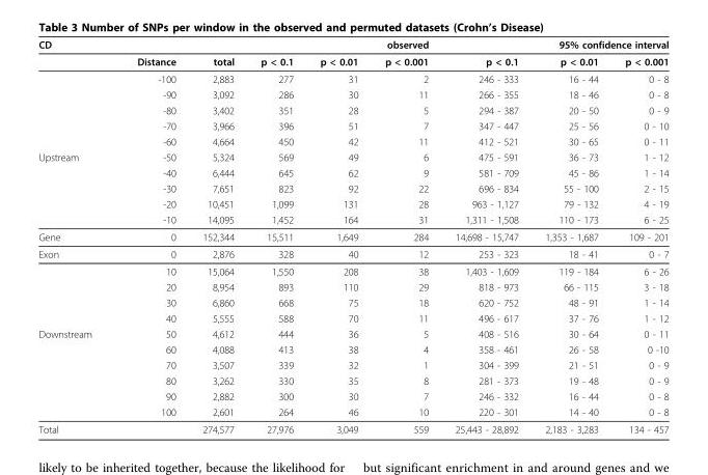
<table><thead><tr><td rowspan="2">CD</td><td rowspan="2">Distance</td><td rowspan="2">total</td><td colspan="3">observed</td><td colspan="3">95% confidence interval</td></tr><tr><td>p &lt; 0.1</td><td>p &lt; 0.01</td><td>p &lt; 0.001</td><td>p &lt; 0.1</td><td>p &lt; 0.01</td><td>p &lt; 0.001</td></tr></thead><tbody><tr><td></td><td>-100</td><td>2,883</td><td>277</td><td>31</td><td>2</td><td>246 - 333</td><td>16 - 44</td><td>0 - 8</td></tr><tr><td></td><td>-90</td><td>3,092</td><td>286</td><td>30</td><td>11</td><td>266 - 355</td><td>18 - 46</td><td>0 - 8</td></tr><tr><td></td><td>-80</td><td>3,402</td><td>351</td><td>28</td><td>5</td><td>294 - 387</td><td>20 - 50</td><td>0 - 9</td></tr><tr><td></td><td>-70</td><td>3,966</td><td>396</td><td>51</td><td>7</td><td>347 - 447</td><td>25 - 56</td><td>0 - 10</td></tr><tr><td></td><td>-60</td><td>4,664</td><td>450</td><td>42</td><td>11</td><td>412 - 521</td><td>30 - 65</td><td>0 - 11</td></tr><tr><td rowspan="5">Upstream</td><td>-50</td><td>5,324</td><td>569</td><td>49</td><td>6</td><td>475 - 591</td><td>36 - 73</td><td>1 - 12</td></tr><tr><td>-40</td><td>6,444</td><td>645</td><td>62</td><td>9</td><td>581 - 709</td><td>45 - 86</td><td>1 - 14</td></tr><tr><td>-30</td><td>7,651</td><td>823</td><td>92</td><td>22</td><td>696 - 834</td><td>55 - 100</td><td>2 - 15</td></tr><tr><td>-20</td><td>10,451</td><td>1,099</td><td>131</td><td>28</td><td>963 - 1,127</td><td>79 - 132</td><td>4 - 19</td></tr><tr><td>-10</td><td>14,095</td><td>1,452</td><td>164</td><td>31</td><td>1,311 - 1,508</td><td>110 - 173</td><td>6 - 25</td></tr><tr><td>Gene</td><td>0</td><td>152,344</td><td>15,511</td><td>1,649</td><td>284</td><td>14,698 - 15,747</td><td>1,353 - 1,687</td><td>109 - 201</td></tr><tr><td rowspan="5">Exon</td><td>0</td><td>2,876</td><td>328</td><td>40</td><td>12</td><td>253 - 323</td><td>18 - 41</td><td>0 - 7</td></tr><tr><td>10</td><td>15,064</td><td>1,550</td><td>208</td><td>38</td><td>1,403 - 1,609</td><td>119 - 184</td><td>6 - 26</td></tr><tr><td>20</td><td>8,954</td><td>893</td><td>110</td><td>29</td><td>818 - 973</td><td>66 - 115</td><td>3 - 18</td></tr><tr><td>30</td><td>6,860</td><td>668</td><td>75</td><td>18</td><td>620 - 752</td><td>48 - 91</td><td>1 - 14</td></tr><tr><td>40</td><td>5,555</td><td>588</td><td>70</td><td>11</td><td>496 - 617</td><td>37 - 76</td><td>1 - 12</td></tr><tr><td rowspan="6">Downstream</td><td>50</td><td>4,612</td><td>444</td><td>36</td><td>5</td><td>408 - 516</td><td>30 - 64</td><td>0 - 11</td></tr><tr><td>60</td><td>4,088</td><td>413</td><td>38</td><td>4</td><td>358 - 461</td><td>26 - 58</td><td>0 -10</td></tr><tr><td>70</td><td>3,507</td><td>339</td><td>32</td><td>1</td><td>304 - 399</td><td>21 - 51</td><td>0 - 9</td></tr><tr><td>80</td><td>3,262</td><td>330</td><td>35</td><td>8</td><td>281 - 373</td><td>19 - 48</td><td>0 - 9</td></tr><tr><td>90</td><td>2,882</td><td>300</td><td>30</td><td>7</td><td>246 - 332</td><td>16 - 44</td><td>0 - 8</td></tr><tr><td>100</td><td>2,601</td><td>264</td><td>46</td><td>10</td><td>220 - 301</td><td>14 - 40</td><td>0 - 8</td></tr><tr><td>Total</td><td></td><td>274,577</td><td>27,976</td><td>3,049</td><td>559</td><td>25,443 - 28,892</td><td>2,183 - 3,283</td><td>134 - 457</td></tr></tbody></table>